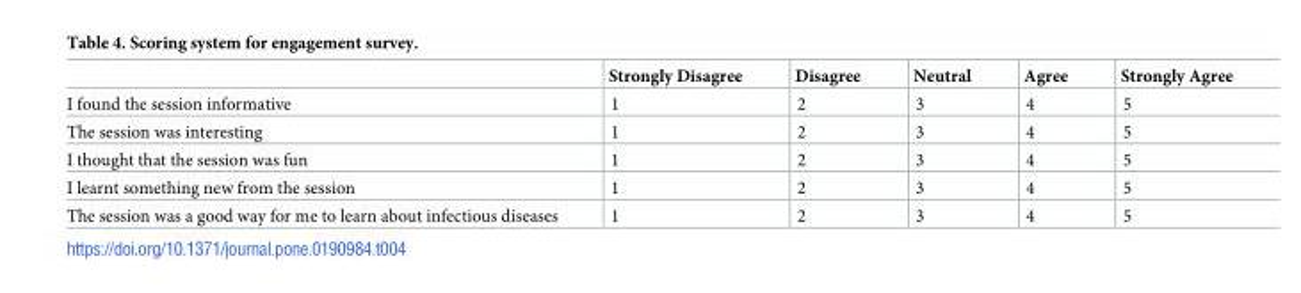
<table><thead><tr><td></td><td>Strongly Disagree</td><td>Disagree</td><td>Neutral</td><td>Agree</td><td>Strongly Agree</td></tr></thead><tbody><tr><td>I found the session informative</td><td>1</td><td>2</td><td>3</td><td>4</td><td>5</td></tr><tr><td>The session was interesting</td><td>1</td><td>2</td><td>3</td><td>4</td><td>5</td></tr><tr><td>I thought that the session was fun</td><td>1</td><td>2</td><td>3</td><td>4</td><td>5</td></tr><tr><td>I learnt something new from the session</td><td>1</td><td>2</td><td>3</td><td>4</td><td>5</td></tr><tr><td>The session was a good way for me to learn about infectious diseases</td><td>1</td><td>2</td><td>3</td><td>4</td><td>5</td></tr></tbody></table>